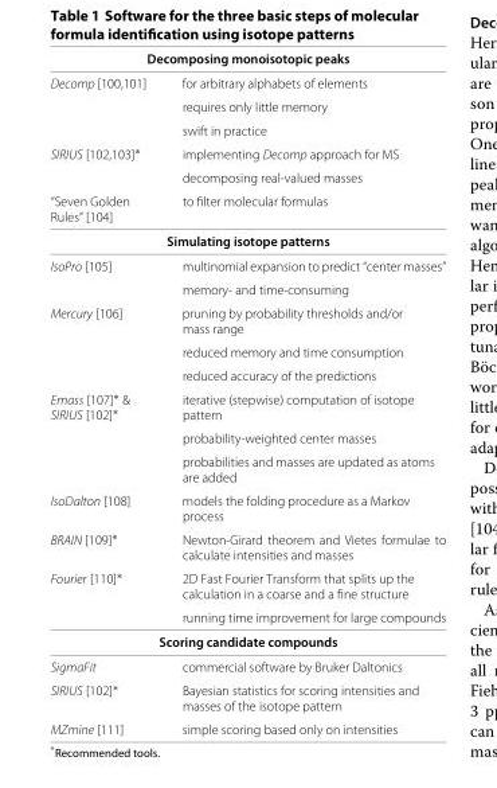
<table><thead><tr><td colspan="2">Decomposing monoisotopic peaks</td></tr><tr><td>Decomp [100,101]</td><td>for arbitrary alphabets of elements</td></tr></thead><tbody><tr><td></td><td>requires only little memory</td></tr><tr><td></td><td>swift in practice</td></tr><tr><td rowspan="2">SIRIUS [102,103]∗</td><td>implementing Decomp approach for MS</td></tr><tr><td>decomposing real-valued masses</td></tr><tr><td>“Seven Golden Rules” [104]</td><td>to filter molecular formulas</td></tr><tr><td colspan="2">Simulating isotope patterns</td></tr><tr><td rowspan="2">IsoPro [105]</td><td>multinomial expansion to predict “center masses”</td></tr><tr><td>memory- and time-consuming</td></tr><tr><td rowspan="3">Mercury [106]</td><td>pruning by probability thresholds and/or mass range</td></tr><tr><td>reduced memory and time consumption</td></tr><tr><td>reduced accuracy of the predictions</td></tr><tr><td rowspan="3">Emass [107]∗ &amp; SIRIUS [102]∗</td><td>iterative (stepwise) computation of isotope pattern</td></tr><tr><td>probability-weighted center masses</td></tr><tr><td>probabilities and masses are updated as atoms are added</td></tr><tr><td>IsoDalton [108]</td><td>models the folding procedure as a Markov process</td></tr><tr><td>BRAIN [109]∗</td><td>Newton-Girard theorem and Vietes formulae to calculate intensities and masses</td></tr><tr><td rowspan="2">Fourier [110]∗</td><td>2D Fast Fourier Transform that splits up the calculation in a coarse and a fine structure</td></tr><tr><td>running time improvement for large compounds</td></tr><tr><td colspan="2">Scoring candidate compounds</td></tr><tr><td>SigmaFit</td><td>commercial software by Bruker Daltonics</td></tr><tr><td>SIRIUS [102]∗</td><td>Bayesian statistics for scoring intensities and masses of the isotope pattern</td></tr><tr><td>MZmine [111]</td><td>simple scoring based only on intensities</td></tr></tbody></table>